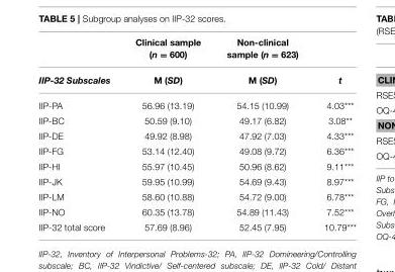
<table><thead><tr><td></td><td>Clinical sample (n = 600)</td><td>Non-clinical sample (n = 623)</td><td></td></tr></thead><tbody><tr><td>IIP-32 Subscales</td><td>M (SD)</td><td>M (SD)</td><td>t</td></tr><tr><td>IIP-PA</td><td>56.96 (13.19)</td><td>54.15 (10.99)</td><td>4.03***</td></tr><tr><td>IIP-BC</td><td>50.59 (9.10)</td><td>49.17 (6.82)</td><td>3.08**</td></tr><tr><td>IIP-DE</td><td>49.92 (8.98)</td><td>47.92 (7.03)</td><td>4.33***</td></tr><tr><td>IIP-FG</td><td>53.14 (12.40)</td><td>49.08 (9.72)</td><td>6.36***</td></tr><tr><td>IIP-HI</td><td>55.97 (10.45)</td><td>50.96 (8.62)</td><td>9.11***</td></tr><tr><td>IIP-JK</td><td>59.95 (10.99)</td><td>54.69 (9.43)</td><td>8.97***</td></tr><tr><td>IIP-LM</td><td>58.60 (10.88)</td><td>54.72 (9.00)</td><td>6.78***</td></tr><tr><td>IIP-NO</td><td>60.35 (13.78)</td><td>54.89 (11.43)</td><td>7.52***</td></tr><tr><td>IIP-32 total score</td><td>57.69 (8.96)</td><td>52.45 (7.95)</td><td>10.79***</td></tr></tbody></table>